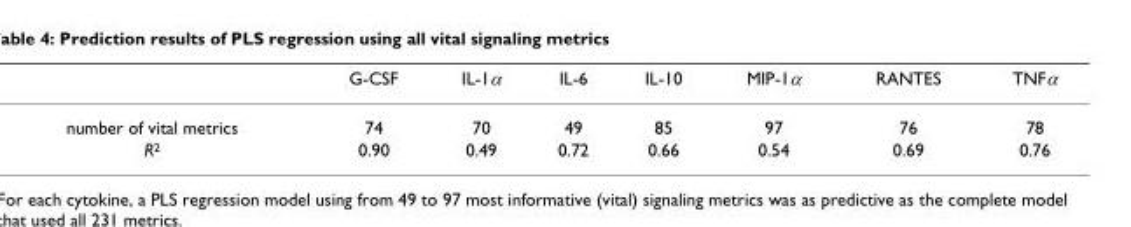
<table><thead><tr><td></td><td>G-CSF</td><td>IL-1α</td><td>IL-6</td><td>IL-10</td><td>MIP-1α</td><td>RANTES</td><td>TNFα</td></tr></thead><tbody><tr><td>number of vital metrics</td><td>74</td><td>70</td><td>49</td><td>85</td><td>97</td><td>76</td><td>78</td></tr><tr><td>R<sup>2</sup></td><td>0.90</td><td>0.49</td><td>0.72</td><td>0.66</td><td>0.54</td><td>0.69</td><td>0.76</td></tr></tbody></table>